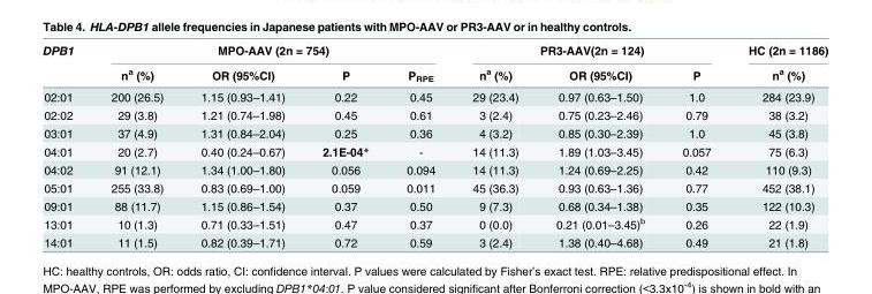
<table><thead><tr><td rowspan="2">DPB1</td><td colspan="4">MPO-AAV (2n = 754)</td><td colspan="3">PR3-AAV(2n = 124)</td><td rowspan="2">HC (2n = 1186) n<sup>a</sup> (%)</td></tr><tr><td>n<sup>a</sup> (%)</td><td>OR (95%CI)</td><td>P</td><td>P<sub>RPE</sub></td><td>n<sup>a</sup> (%)</td><td>OR (95%CI)</td><td>P</td></tr></thead><tbody><tr><td>02:01</td><td>200 (26.5)</td><td>1.15 (0.93–1.41)</td><td>0.22</td><td>0.45</td><td>29 (23.4)</td><td>0.97 (0.63–1.50)</td><td>1.0</td><td>284 (23.9)</td></tr><tr><td>02:02</td><td>29 (3.8)</td><td>1.21 (0.74–1.98)</td><td>0.45</td><td>0.61</td><td>3 (2.4)</td><td>0.75 (0.23–2.46)</td><td>0.79</td><td>38 (3.2)</td></tr><tr><td>03:01</td><td>37 (4.9)</td><td>1.31 (0.84–2.04)</td><td>0.25</td><td>0.36</td><td>4 (3.2)</td><td>0.85 (0.30–2.39)</td><td>1.0</td><td>45 (3.8)</td></tr><tr><td>04:01</td><td>20 (2.7)</td><td>0.40 (0.24–0.67)</td><td>2.1E-04*</td><td>-</td><td>14 (11.3)</td><td>1.89 (1.03–3.45)</td><td>0.057</td><td>75 (6.3)</td></tr><tr><td>04:02</td><td>91 (12.1)</td><td>1.34 (1.00–1.80)</td><td>0.056</td><td>0.094</td><td>14 (11.3)</td><td>1.24 (0.69–2.25)</td><td>0.42</td><td>110 (9.3)</td></tr><tr><td>05:01</td><td>255 (33.8)</td><td>0.83 (0.69–1.00)</td><td>0.059</td><td>0.011</td><td>45 (36.3)</td><td>0.93 (0.63–1.36)</td><td>0.77</td><td>452 (38.1)</td></tr><tr><td>09:01</td><td>88 (11.7)</td><td>1.15 (0.86–1.54)</td><td>0.37</td><td>0.50</td><td>9 (7.3)</td><td>0.68 (0.34–1.38)</td><td>0.35</td><td>122 (10.3)</td></tr><tr><td>13:01</td><td>10 (1.3)</td><td>0.71 (0.33–1.51)</td><td>0.47</td><td>0.37</td><td>0 (0.0)</td><td>0.21 (0.01–3.45)<sup>b</sup></td><td>0.26</td><td>22 (1.9)</td></tr><tr><td>14:01</td><td>11 (1.5)</td><td>0.82 (0.39–1.71)</td><td>0.72</td><td>0.59</td><td>3 (2.4)</td><td>1.38 (0.40–4.68)</td><td>0.49</td><td>21 (1.8)</td></tr></tbody></table>